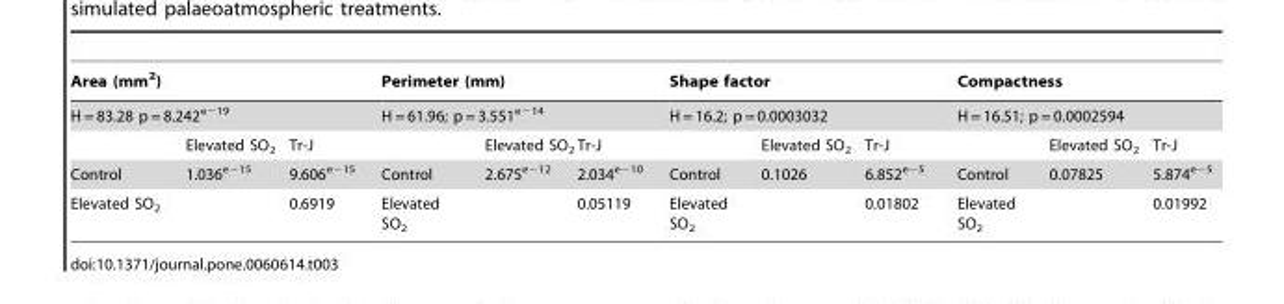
<table><thead><tr><td rowspan="2" colspan="3">Area (mm<sup>2</sup>) H = 83.28 p = 8.242<sup>e−19</sup></td><td rowspan="2" colspan="3">Perimeter (mm) H = 61.96; p = 3.551<sup>e−14</sup></td><td rowspan="2" colspan="3">Shape factor H = 16.2; p = 0.0003032</td><td rowspan="2" colspan="3">Compactness H = 16.51; p = 0.0002594</td></tr><tr></tr><tr><td></td><td>Elevated SO<sub>2</sub></td><td>Tr-J</td><td></td><td>Elevated SO<sub>2</sub></td><td>Tr-J</td><td></td><td>Elevated SO<sub>2</sub></td><td>Tr-J</td><td></td><td>Elevated SO<sub>2</sub></td><td>Tr-J</td></tr></thead><tbody><tr><td>Control</td><td>1.036<sup>e−15</sup></td><td>9.606<sup>e−15</sup></td><td>Control</td><td>2.675<sup>e−12</sup></td><td>2.034<sup>e−10</sup></td><td>Control</td><td>0.1026</td><td>6.852<sup>e−5</sup></td><td>Control</td><td>0.07825</td><td>5.874<sup>e−5</sup></td></tr><tr><td>Elevated SO<sub>2</sub></td><td></td><td>0.6919</td><td>Elevated SO<sub>2</sub></td><td></td><td>0.05119</td><td>Elevated SO<sub>2</sub></td><td></td><td>0.01802</td><td>Elevated SO<sub>2</sub></td><td></td><td>0.01992</td></tr></tbody></table>